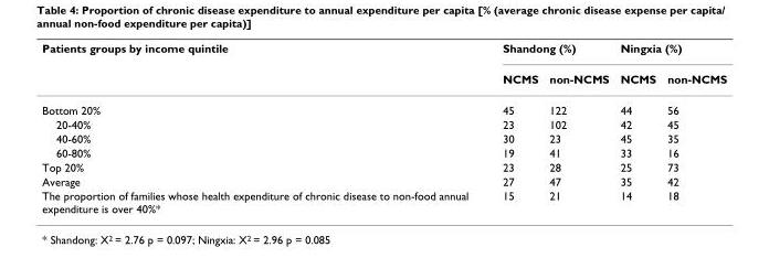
<table><thead><tr><td rowspan="2">Patients groups by income quintile</td><td colspan="2">Shandong (%)</td><td colspan="2">Ningxia (%)</td></tr><tr><td>NCMS</td><td>non-NCMS</td><td>NCMS</td><td>non-NCMS</td></tr></thead><tbody><tr><td>Bottom 20%</td><td>45</td><td>122</td><td>44</td><td>56</td></tr><tr><td>20-40%</td><td>23</td><td>102</td><td>42</td><td>45</td></tr><tr><td>40-60%</td><td>30</td><td>23</td><td>45</td><td>35</td></tr><tr><td>60-80%</td><td>19</td><td>41</td><td>33</td><td>16</td></tr><tr><td>Top 20%</td><td>23</td><td>28</td><td>25</td><td>73</td></tr><tr><td>Average</td><td>27</td><td>47</td><td>35</td><td>42</td></tr><tr><td>The proportion of families whose health expenditure of chronic disease to non-food annual expenditure is over 40%*</td><td>15</td><td>21</td><td>14</td><td>18</td></tr></tbody></table>